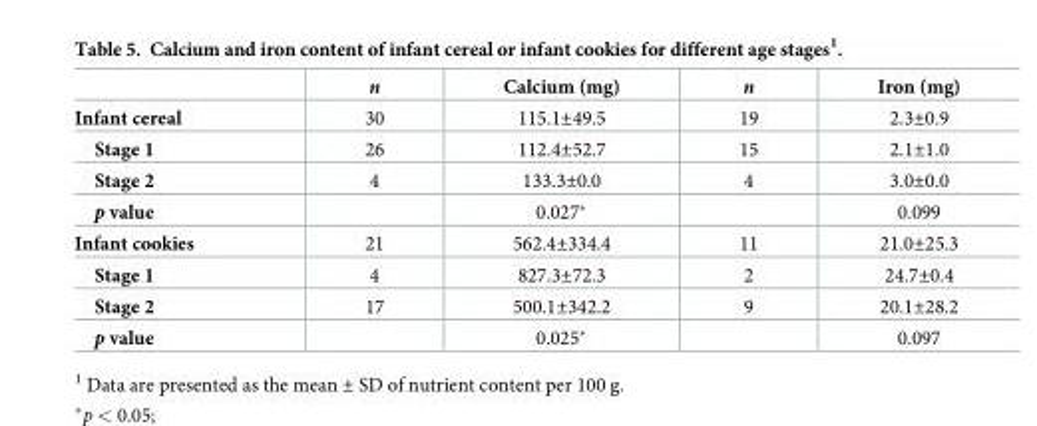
<table><thead><tr><td></td><td>n</td><td>Calcium (mg)</td><td>n</td><td>Iron (mg)</td></tr></thead><tbody><tr><td>Infant cereal</td><td>30</td><td>115.1±49.5</td><td>19</td><td>2.3±0.9</td></tr><tr><td>Stage 1</td><td>26</td><td>112.4±52.7</td><td>15</td><td>2.1±1.0</td></tr><tr><td>Stage 2</td><td>4</td><td>133.3±0.0</td><td>4</td><td>3.0±0.0</td></tr><tr><td>p value</td><td></td><td>0.027*</td><td></td><td>0.099</td></tr><tr><td>Infant cookies</td><td>21</td><td>562.4±334.4</td><td>11</td><td>21.0±25.3</td></tr><tr><td>Stage 1</td><td>4</td><td>827.3±72.3</td><td>2</td><td>24.7±0.4</td></tr><tr><td>Stage 2</td><td>17</td><td>500.1±342.2</td><td>9</td><td>20.1±28.2</td></tr><tr><td>p value</td><td></td><td>0.025*</td><td></td><td>0.097</td></tr></tbody></table>